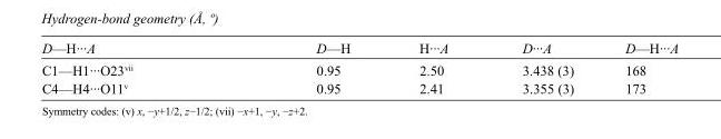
<table><tbody><tr><td>D—H···A</td><td>D—H</td><td>H···A</td><td>D···A</td><td>D—H···A</td></tr><tr><td>C1—H1···O23<sup>vii</sup></td><td>0.95</td><td>2.50</td><td>3.438 (3)</td><td>168</td></tr><tr><td>C4—H4···O11<sup>v</sup></td><td>0.95</td><td>2.41</td><td>3.355 (3)</td><td>173</td></tr></tbody></table>